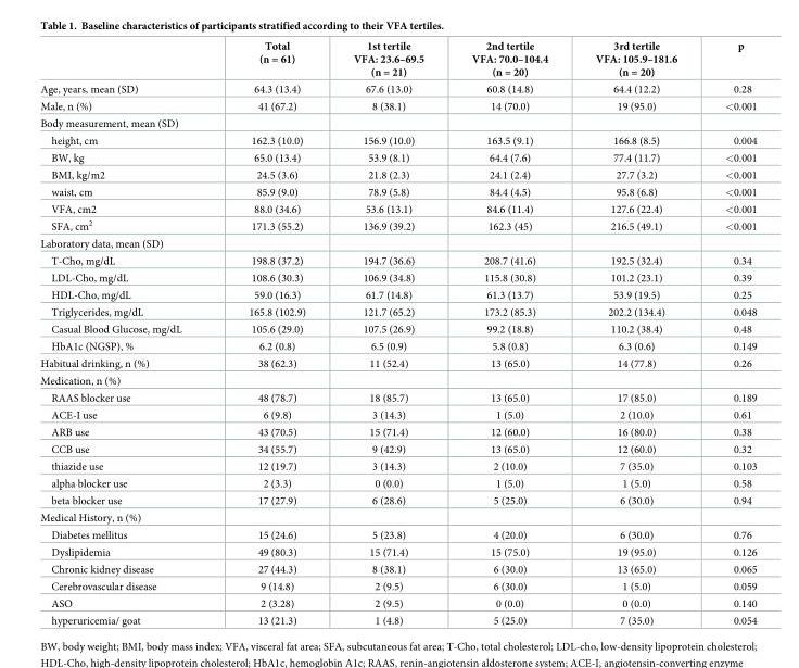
<table><thead><tr><td></td><td>Total (n = 61)</td><td>1st tertile VFA: 23.6–69.5 (n = 21)</td><td>2nd tertile VFA: 70.0–104.4 (n = 20)</td><td>3rd tertile VFA: 105.9–181.6 (n = 20)</td><td>p</td></tr></thead><tbody><tr><td>Age, years, mean (SD)</td><td>64.3 (13.4)</td><td>67.6 (13.0)</td><td>60.8 (14.8)</td><td>64.4 (12.2)</td><td>0.28</td></tr><tr><td>Male, n (%)</td><td>41 (67.2)</td><td>8 (38.1)</td><td>14 (70.0)</td><td>19 (95.0)</td><td>&lt;0.001</td></tr><tr><td colspan="6">Body measurement, mean (SD)</td></tr><tr><td>height, cm</td><td>162.3 (10.0)</td><td>156.9 (10.0)</td><td>163.5 (9.1)</td><td>166.8 (8.5)</td><td>0.004</td></tr><tr><td>BW, kg</td><td>65.0 (13.4)</td><td>53.9 (8.1)</td><td>64.4 (7.6)</td><td>77.4 (11.7)</td><td>&lt;0.001</td></tr><tr><td>BMI, kg/m2</td><td>24.5 (3.6)</td><td>21.8 (2.3)</td><td>24.1 (2.4)</td><td>27.7 (3.2)</td><td>&lt;0.001</td></tr><tr><td>waist, cm</td><td>85.9 (9.0)</td><td>78.9 (5.8)</td><td>84.4 (4.5)</td><td>95.8 (6.8)</td><td>&lt;0.001</td></tr><tr><td>VFA, cm2</td><td>88.0 (34.6)</td><td>53.6 (13.1)</td><td>84.6 (11.4)</td><td>127.6 (22.4)</td><td>&lt;0.001</td></tr><tr><td>SFA, cm<sup>2</sup></td><td>171.3 (55.2)</td><td>136.9 (39.2)</td><td>162.3 (45)</td><td>216.5 (49.1)</td><td>&lt;0.001</td></tr><tr><td colspan="6">Laboratory data, mean (SD)</td></tr><tr><td>T-Cho, mg/dL</td><td>198.8 (37.2)</td><td>194.7 (36.6)</td><td>208.7 (41.6)</td><td>192.5 (32.4)</td><td>0.34</td></tr><tr><td>LDL-Cho, mg/dL</td><td>108.6 (30.3)</td><td>106.9 (34.8)</td><td>115.8 (30.8)</td><td>101.2 (23.1)</td><td>0.39</td></tr><tr><td>HDL-Cho, mg/dL</td><td>59.0 (16.3)</td><td>61.7 (14.8)</td><td>61.3 (13.7)</td><td>53.9 (19.5)</td><td>0.25</td></tr><tr><td>Triglycerides, mg/dL</td><td>165.8 (102.9)</td><td>121.7 (65.2)</td><td>173.2 (85.3)</td><td>202.2 (134.4)</td><td>0.048</td></tr><tr><td>Casual Blood Glucose, mg/dL</td><td>105.6 (29.0)</td><td>107.5 (26.9)</td><td>99.2 (18.8)</td><td>110.2 (38.4)</td><td>0.48</td></tr><tr><td>HbA1c (NGSP), %</td><td>6.2 (0.8)</td><td>6.5 (0.9)</td><td>5.8 (0.8)</td><td>6.3 (0.6)</td><td>0.149</td></tr><tr><td>Habitual drinking, n (%)</td><td>38 (62.3)</td><td>11 (52.4)</td><td>13 (65.0)</td><td>14 (77.8)</td><td>0.26</td></tr><tr><td colspan="6">Medication, n (%)</td></tr><tr><td>RAAS blocker use</td><td>48 (78.7)</td><td>18 (85.7)</td><td>13 (65.0)</td><td>17 (85.0)</td><td>0.189</td></tr><tr><td>ACE-I use</td><td>6 (9.8)</td><td>3 (14.3)</td><td>1 (5.0)</td><td>2 (10.0)</td><td>0.61</td></tr><tr><td>ARB use</td><td>43 (70.5)</td><td>15 (71.4)</td><td>12 (60.0)</td><td>16 (80.0)</td><td>0.38</td></tr><tr><td>CCB use</td><td>34 (55.7)</td><td>9 (42.9)</td><td>13 (65.0)</td><td>12 (60.0)</td><td>0.32</td></tr><tr><td>thiazide use</td><td>12 (19.7)</td><td>3 (14.3)</td><td>2 (10.0)</td><td>7 (35.0)</td><td>0.103</td></tr><tr><td>alpha blocker use</td><td>2 (3.3)</td><td>0 (0.0)</td><td>1 (5.0)</td><td>1 (5.0)</td><td>0.58</td></tr><tr><td>beta blocker use</td><td>17 (27.9)</td><td>6 (28.6)</td><td>5 (25.0)</td><td>6 (30.0)</td><td>0.94</td></tr><tr><td colspan="6">Medical History, n (%)</td></tr><tr><td>Diabetes mellitus</td><td>15 (24.6)</td><td>5 (23.8)</td><td>4 (20.0)</td><td>6 (30.0)</td><td>0.76</td></tr><tr><td>Dyslipidemia</td><td>49 (80.3)</td><td>15 (71.4)</td><td>15 (75.0)</td><td>19 (95.0)</td><td>0.126</td></tr><tr><td>Chronic kidney disease</td><td>27 (44.3)</td><td>8 (38.1)</td><td>6 (30.0)</td><td>13 (65.0)</td><td>0.065</td></tr><tr><td>Cerebrovascular disease</td><td>9 (14.8)</td><td>2 (9.5)</td><td>6 (30.0)</td><td>1 (5.0)</td><td>0.059</td></tr><tr><td>ASO</td><td>2 (3.28)</td><td>2 (9.5)</td><td>0 (0.0)</td><td>0 (0.0)</td><td>0.140</td></tr><tr><td>hyperuricemia/ goat</td><td>13 (21.3)</td><td>1 (4.8)</td><td>5 (25.0)</td><td>7 (35.0)</td><td>0.054</td></tr></tbody></table>